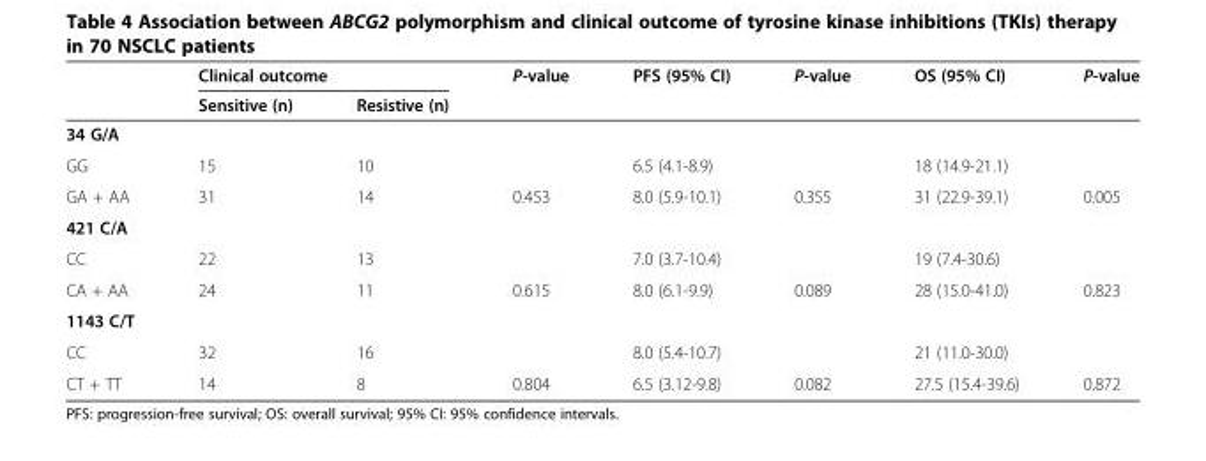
<table><thead><tr><td rowspan="2"></td><td colspan="2">Clinical outcome</td><td rowspan="2">P-value</td><td rowspan="2">PFS (95% CI)</td><td rowspan="2">P-value</td><td rowspan="2">OS (95% CI)</td><td rowspan="2">P-value</td></tr><tr><td>Sensitive (n)</td><td>Resistive (n)</td></tr></thead><tbody><tr><td colspan="8">34 G/A</td></tr><tr><td>GG</td><td>15</td><td>10</td><td></td><td>6.5 (4.1-8.9)</td><td></td><td>18 (14.9-21.1)</td><td></td></tr><tr><td>GA + AA</td><td>31</td><td>14</td><td>0.453</td><td>8.0 (5.9-10.1)</td><td>0.355</td><td>31 (22.9-39.1)</td><td>0.005</td></tr><tr><td colspan="8">421 C/A</td></tr><tr><td>CC</td><td>22</td><td>13</td><td></td><td>7.0 (3.7-10.4)</td><td></td><td>19 (7.4-30.6)</td><td></td></tr><tr><td>CA + AA</td><td>24</td><td>11</td><td>0.615</td><td>8.0 (6.1-9.9)</td><td>0.089</td><td>28 (15.0-41.0)</td><td>0.823</td></tr><tr><td colspan="8">1143 C/T</td></tr><tr><td>CC</td><td>32</td><td>16</td><td></td><td>8.0 (5.4-10.7)</td><td></td><td>21 (11.0-30.0)</td><td></td></tr><tr><td>CT + TT</td><td>14</td><td>8</td><td>0.804</td><td>6.5 (3.12-9.8)</td><td>0.082</td><td>27.5 (15.4-39.6)</td><td>0.872</td></tr></tbody></table>